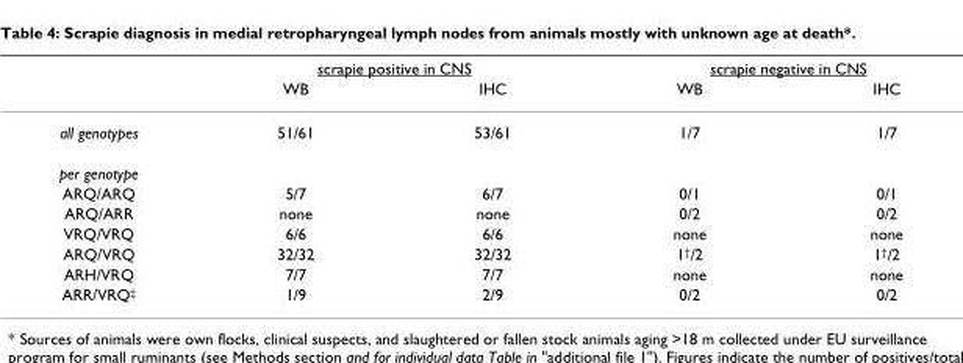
<table><thead><tr><td rowspan="2"></td><td colspan="2">scrapie positive in CNS</td><td colspan="2">scrapie negative in CNS</td></tr><tr><td>WB</td><td>IHC</td><td>WB</td><td>IHC</td></tr></thead><tbody><tr><td>all genotypes</td><td>51/61</td><td>53/61</td><td>1/7</td><td>1/7</td></tr><tr><td colspan="5">per genotype</td></tr><tr><td>ARQ/ARQ</td><td>5/7</td><td>6/7</td><td>0/1</td><td>0/1</td></tr><tr><td>ARQ/ARR</td><td>none</td><td>none</td><td>0/2</td><td>0/2</td></tr><tr><td>VRQ/VRQ</td><td>6/6</td><td>6/6</td><td>none</td><td>none</td></tr><tr><td>ARQ/VRQ</td><td>32/32</td><td>32/32</td><td>1†/2</td><td>1†/2</td></tr><tr><td>ARH/VRQ</td><td>7/7</td><td>7/7</td><td>none</td><td>none</td></tr><tr><td>ARR/VRQ‡</td><td>1/9</td><td>2/9</td><td>0/2</td><td>0/2</td></tr></tbody></table>